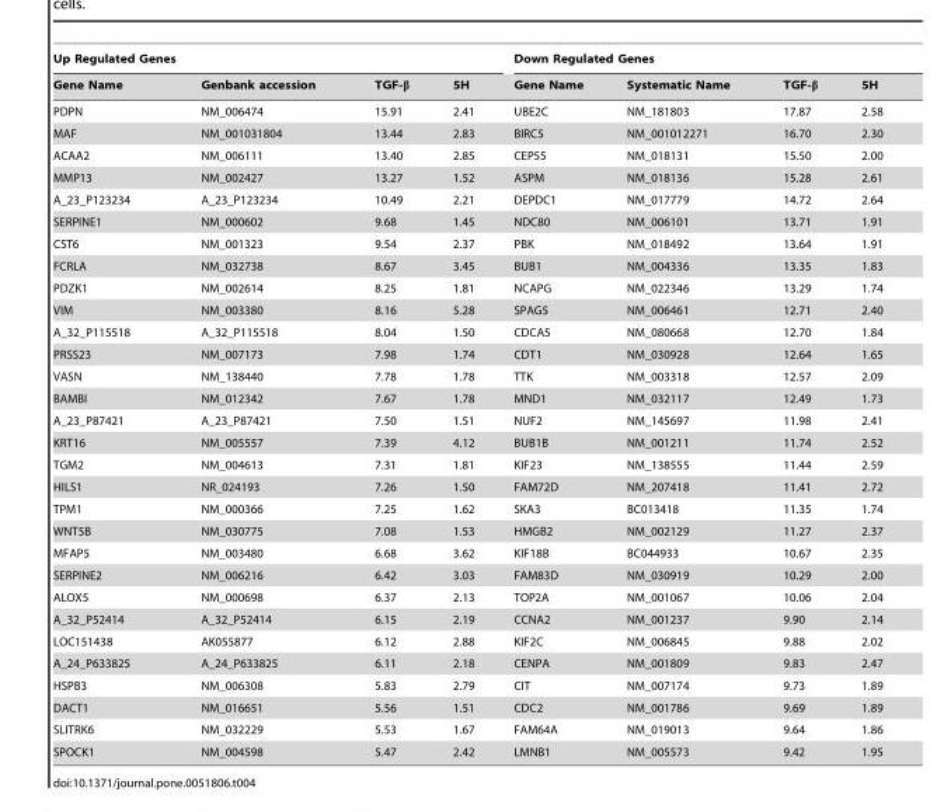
<table><thead><tr><td colspan="4">Up Regulated Genes</td><td colspan="4">Down Regulated Genes</td></tr><tr><td>Gene Name</td><td>Genbank accession</td><td>TGF-β</td><td>5H</td><td>Gene Name</td><td>Systematic Name</td><td>TGF-β</td><td>5H</td></tr></thead><tbody><tr><td>PDPN</td><td>NM_006474</td><td>15.91</td><td>2.41</td><td>UBE2C</td><td>NM_181803</td><td>17.87</td><td>2.58</td></tr><tr><td>MAF</td><td>NM_001031804</td><td>13.44</td><td>2.83</td><td>BIRC5</td><td>NM_001012271</td><td>16.70</td><td>2.30</td></tr><tr><td>ACAA2</td><td>NM_006111</td><td>13.40</td><td>2.85</td><td>CEP55</td><td>NM_018131</td><td>15.50</td><td>2.00</td></tr><tr><td>MMP13</td><td>NM_002427</td><td>13.27</td><td>1.52</td><td>ASPM</td><td>NM_018136</td><td>15.28</td><td>2.61</td></tr><tr><td>A_23_P123234</td><td>A_23_P123234</td><td>10.49</td><td>2.21</td><td>DEPDC1</td><td>NM_017779</td><td>14.72</td><td>2.64</td></tr><tr><td>SERPINE1</td><td>NM_000602</td><td>9.68</td><td>1.45</td><td>NDC80</td><td>NM_006101</td><td>13.71</td><td>1.91</td></tr><tr><td>CST6</td><td>NM_001323</td><td>9.54</td><td>2.37</td><td>PBK</td><td>NM_018492</td><td>13.64</td><td>1.91</td></tr><tr><td>FCRLA</td><td>NM_032738</td><td>8.67</td><td>3.45</td><td>BUB1</td><td>NM_004336</td><td>13.35</td><td>1.83</td></tr><tr><td>PDZK1</td><td>NM_002614</td><td>8.25</td><td>1.81</td><td>NCAPG</td><td>NM_022346</td><td>13.29</td><td>1.74</td></tr><tr><td>VIM</td><td>NM_003380</td><td>8.16</td><td>5.28</td><td>SPAG5</td><td>NM_006461</td><td>12.71</td><td>2.40</td></tr><tr><td>A_32_P115518</td><td>A_32_P115518</td><td>8.04</td><td>1.50</td><td>CDCA5</td><td>NM_080668</td><td>12.70</td><td>1.84</td></tr><tr><td>PRSS23</td><td>NM_007173</td><td>7.98</td><td>1.74</td><td>CDT1</td><td>NM_030928</td><td>12.64</td><td>1.65</td></tr><tr><td>VASN</td><td>NM_138440</td><td>7.78</td><td>1.78</td><td>TTK</td><td>NM_003318</td><td>12.57</td><td>2.09</td></tr><tr><td>BAMBI</td><td>NM_012342</td><td>7.67</td><td>1.78</td><td>MND1</td><td>NM_032117</td><td>12.49</td><td>1.73</td></tr><tr><td>A_23_P87421</td><td>A_23_P87421</td><td>7.50</td><td>1.51</td><td>NUF2</td><td>NM_145697</td><td>11.98</td><td>2.41</td></tr><tr><td>KRT16</td><td>NM_005557</td><td>7.39</td><td>4.12</td><td>BUB1B</td><td>NM_001211</td><td>11.74</td><td>2.52</td></tr><tr><td>TGM2</td><td>NM_004613</td><td>7.31</td><td>1.81</td><td>KIF23</td><td>NM_138555</td><td>11.44</td><td>2.59</td></tr><tr><td>HILS1</td><td>NR_024193</td><td>7.26</td><td>1.50</td><td>FAM72D</td><td>NM_207418</td><td>11.41</td><td>2.72</td></tr><tr><td>TPM1</td><td>NM_000366</td><td>7.25</td><td>1.62</td><td>SKA3</td><td>BC013418</td><td>11.35</td><td>1.74</td></tr><tr><td>WNT5B</td><td>NM_030775</td><td>7.08</td><td>1.53</td><td>HMGB2</td><td>NM_002129</td><td>11.27</td><td>2.37</td></tr><tr><td>MFAP5</td><td>NM_003480</td><td>6.68</td><td>3.62</td><td>KIF18B</td><td>BC044933</td><td>10.67</td><td>2.35</td></tr><tr><td>SERPINE2</td><td>NM_006216</td><td>6.42</td><td>3.03</td><td>FAM83D</td><td>NM_030919</td><td>10.29</td><td>2.00</td></tr><tr><td>ALOX5</td><td>NM_000698</td><td>6.37</td><td>2.13</td><td>TOP2A</td><td>NM_001067</td><td>10.06</td><td>2.04</td></tr><tr><td>A_32_P52414</td><td>A_32_P52414</td><td>6.15</td><td>2.19</td><td>CCNA2</td><td>NM_001237</td><td>9.90</td><td>2.14</td></tr><tr><td>LOC151438</td><td>AK055877</td><td>6.12</td><td>2.88</td><td>KIF2C</td><td>NM_006845</td><td>9.88</td><td>2.02</td></tr><tr><td>A_24_P633825</td><td>A_24_P633825</td><td>6.11</td><td>2.18</td><td>CENPA</td><td>NM_001809</td><td>9.83</td><td>2.47</td></tr><tr><td>HSPB3</td><td>NM_006308</td><td>5.83</td><td>2.79</td><td>CIT</td><td>NM_007174</td><td>9.73</td><td>1.89</td></tr><tr><td>DACT1</td><td>NM_016651</td><td>5.56</td><td>1.51</td><td>CDC2</td><td>NM_001786</td><td>9.69</td><td>1.89</td></tr><tr><td>SLITRK6</td><td>NM_032229</td><td>5.53</td><td>1.67</td><td>FAM64A</td><td>NM_019013</td><td>9.64</td><td>1.86</td></tr><tr><td>SPOCK1</td><td>NM_004598</td><td>5.47</td><td>2.42</td><td>LMNB1</td><td>NM_005573</td><td>9.42</td><td>1.95</td></tr></tbody></table>